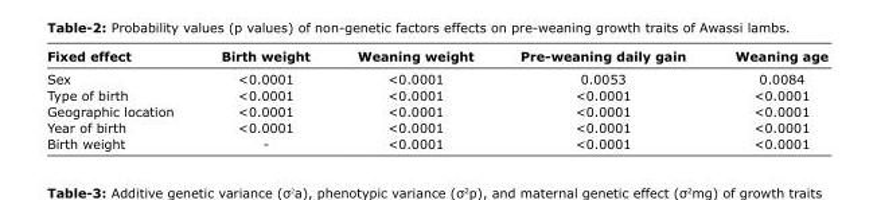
<table><thead><tr><td>Fixed effect</td><td>Birth weight</td><td>Weaning weight</td><td>Pre-weaning daily gain</td><td>Weaning age</td></tr></thead><tbody><tr><td>Sex</td><td>&lt;0.0001</td><td>&lt;0.0001</td><td>0.0053</td><td>0.0084</td></tr><tr><td>Type of birth</td><td>&lt;0.0001</td><td>&lt;0.0001</td><td>&lt;0.0001</td><td>&lt;0.0001</td></tr><tr><td>Geographic location</td><td>&lt;0.0001</td><td>&lt;0.0001</td><td>&lt;0.0001</td><td>&lt;0.0001</td></tr><tr><td>Year of birth</td><td>&lt;0.0001</td><td>&lt;0.0001</td><td>&lt;0.0001</td><td>&lt;0.0001</td></tr><tr><td>Birth weight</td><td>-</td><td>&lt;0.0001</td><td>&lt;0.0001</td><td>&lt;0.0001</td></tr></tbody></table>